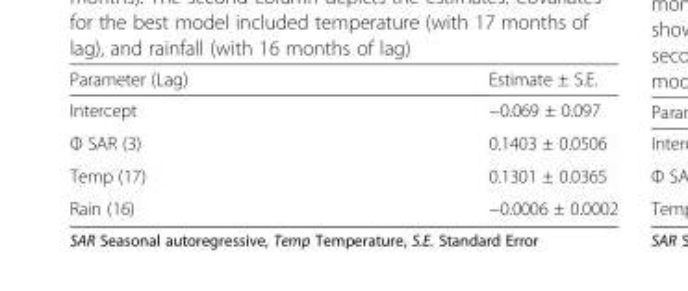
<table><thead><tr><td>Parameter (Lag)</td><td>Estimate ± S.E.</td></tr></thead><tbody><tr><td>Intercept</td><td>−0.069 ± 0.097</td></tr><tr><td>Φ SAR (3)</td><td>0.1403 ± 0.0506</td></tr><tr><td>Temp (17)</td><td>0.1301 ± 0.0365</td></tr><tr><td>Rain (16)</td><td>−0.0006 ± 0.0002</td></tr></tbody></table>